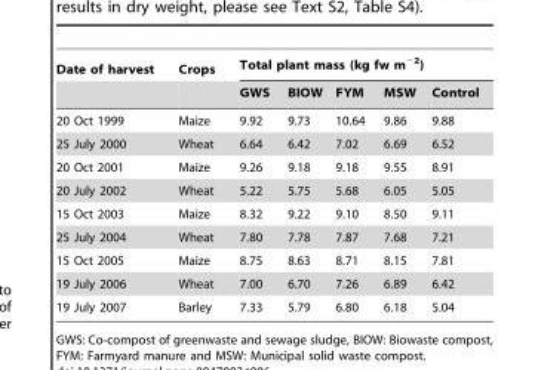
<table><thead><tr><td rowspan="2">Date of harvest</td><td rowspan="2">Crops</td><td colspan="5">Total plant mass (kg fw m<sup>−2</sup>)</td></tr><tr><td>GWS</td><td>BIOW</td><td>FYM</td><td>MSW</td><td>Control</td></tr></thead><tbody><tr><td>20 Oct 1999</td><td>Maize</td><td>9.92</td><td>9.73</td><td>10.64</td><td>9.86</td><td>9.88</td></tr><tr><td>25 July 2000</td><td>Wheat</td><td>6.64</td><td>6.42</td><td>7.02</td><td>6.69</td><td>6.52</td></tr><tr><td>20 Oct 2001</td><td>Maize</td><td>9.26</td><td>9.18</td><td>9.18</td><td>9.55</td><td>8.91</td></tr><tr><td>20 July 2002</td><td>Wheat</td><td>5.22</td><td>5.75</td><td>5.68</td><td>6.05</td><td>5.05</td></tr><tr><td>15 Oct 2003</td><td>Maize</td><td>8.32</td><td>9.22</td><td>9.10</td><td>8.50</td><td>9.11</td></tr><tr><td>25 July 2004</td><td>Wheat</td><td>7.80</td><td>7.78</td><td>7.87</td><td>7.68</td><td>7.21</td></tr><tr><td>15 Oct 2005</td><td>Maize</td><td>8.75</td><td>8.63</td><td>8.71</td><td>8.15</td><td>7.81</td></tr><tr><td>19 July 2006</td><td>Wheat</td><td>7.00</td><td>6.70</td><td>7.26</td><td>6.89</td><td>6.42</td></tr><tr><td>19 July 2007</td><td>Barley</td><td>7.33</td><td>5.79</td><td>6.80</td><td>6.18</td><td>5.04</td></tr></tbody></table>